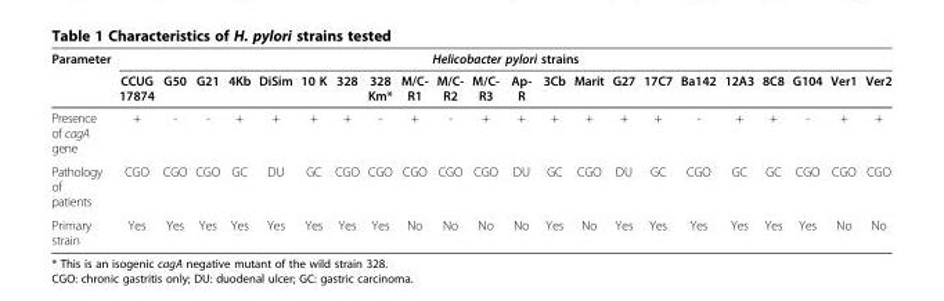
<table><thead><tr><td rowspan="2">Parameter</td><td colspan="22">Helicobacter pylori strains</td></tr><tr><td>CCUG 17874</td><td>G50</td><td>G21</td><td>4Kb</td><td>DiSim</td><td>10 K</td><td>328</td><td>328 Km*</td><td>M/C- R1</td><td>M/C- R2</td><td>M/C- R3</td><td>Ap- R</td><td>3Cb</td><td>Marit</td><td>G27</td><td>17C7</td><td>Ba142</td><td>12A3</td><td>8C8</td><td>G104</td><td>Ver1</td><td>Ver2</td></tr></thead><tbody><tr><td>Presence of cagA gene</td><td>+</td><td>-</td><td>-</td><td>+</td><td>+</td><td>+</td><td>+</td><td>-</td><td>+</td><td>-</td><td>+</td><td>+</td><td>+</td><td>+</td><td>+</td><td>+</td><td>-</td><td>+</td><td>+</td><td>-</td><td>+</td><td>+</td></tr><tr><td>Pathology of patients</td><td>CGO</td><td>CGO</td><td>CGO</td><td>GC</td><td>DU</td><td>GC</td><td>CGO</td><td>CGO</td><td>CGO</td><td>CGO</td><td>CGO</td><td>DU</td><td>GC</td><td>CGO</td><td>DU</td><td>GC</td><td>CGO</td><td>GC</td><td>GC</td><td>CGO</td><td>CGO</td><td>CGO</td></tr><tr><td>Primary strain</td><td>Yes</td><td>Yes</td><td>Yes</td><td>Yes</td><td>Yes</td><td>Yes</td><td>Yes</td><td>Yes</td><td>No</td><td>No</td><td>No</td><td>No</td><td>Yes</td><td>No</td><td>Yes</td><td>Yes</td><td>Yes</td><td>Yes</td><td>Yes</td><td>Yes</td><td>No</td><td>No</td></tr></tbody></table>